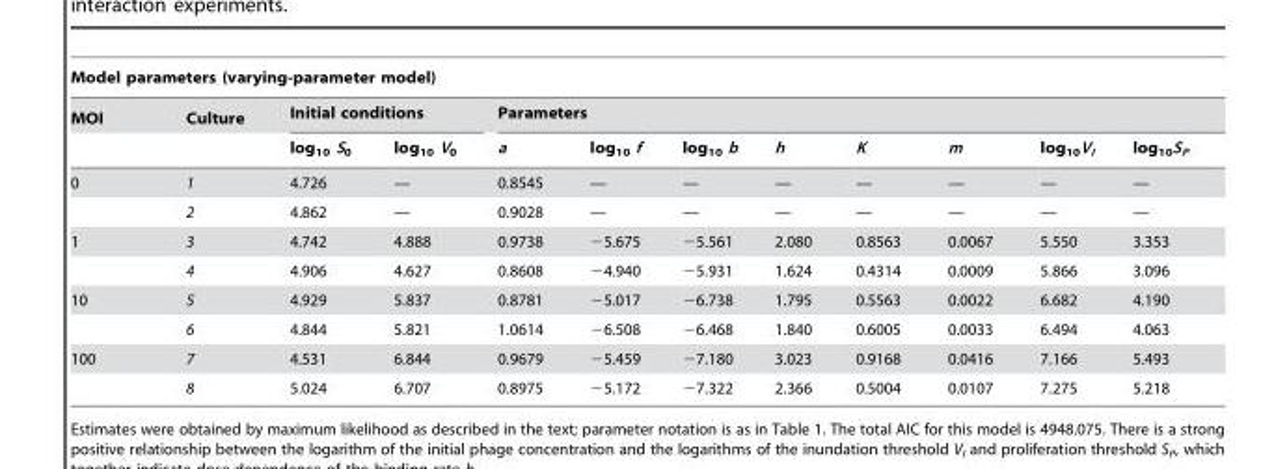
<table><thead><tr><td colspan="12">Model parameters (varying-parameter model)</td></tr><tr><td rowspan="2">MOI</td><td rowspan="2">Culture</td><td colspan="2">Initial conditions</td><td colspan="8">Parameters</td></tr><tr><td>log<sub>10</sub> S<sub>0</sub></td><td>log<sub>10</sub> V<sub>0</sub></td><td>a</td><td>log<sub>10</sub> f</td><td>log<sub>10</sub> b</td><td>h</td><td>K</td><td>m</td><td>log<sub>10</sub>V<sub>I</sub></td><td>log<sub>10</sub>S<sub>P</sub></td></tr></thead><tbody><tr><td rowspan="2">0</td><td>1</td><td>4.726</td><td>—</td><td>0.8545</td><td>—</td><td>—</td><td>—</td><td>—</td><td>—</td><td>—</td><td>—</td></tr><tr><td>2</td><td>4.862</td><td>—</td><td>0.9028</td><td>—</td><td>—</td><td>—</td><td>—</td><td>—</td><td>—</td><td>—</td></tr><tr><td rowspan="2">1</td><td>3</td><td>4.742</td><td>4.888</td><td>0.9738</td><td>−5.675</td><td>−5.561</td><td>2.080</td><td>0.8563</td><td>0.0067</td><td>5.550</td><td>3.353</td></tr><tr><td>4</td><td>4.906</td><td>4.627</td><td>0.8608</td><td>−4.940</td><td>−5.931</td><td>1.624</td><td>0.4314</td><td>0.0009</td><td>5.866</td><td>3.096</td></tr><tr><td rowspan="2">10</td><td>5</td><td>4.929</td><td>5.837</td><td>0.8781</td><td>−5.017</td><td>−6.738</td><td>1.795</td><td>0.5563</td><td>0.0022</td><td>6.682</td><td>4.190</td></tr><tr><td>6</td><td>4.844</td><td>5.821</td><td>1.0614</td><td>−6.508</td><td>−6.468</td><td>1.840</td><td>0.6005</td><td>0.0033</td><td>6.494</td><td>4.063</td></tr><tr><td rowspan="2">100</td><td>7</td><td>4.531</td><td>6.844</td><td>0.9679</td><td>−5.459</td><td>−7.180</td><td>3.023</td><td>0.9168</td><td>0.0416</td><td>7.166</td><td>5.493</td></tr><tr><td>8</td><td>5.024</td><td>6.707</td><td>0.8975</td><td>−5.172</td><td>−7.322</td><td>2.366</td><td>0.5004</td><td>0.0107</td><td>7.275</td><td>5.218</td></tr></tbody></table>